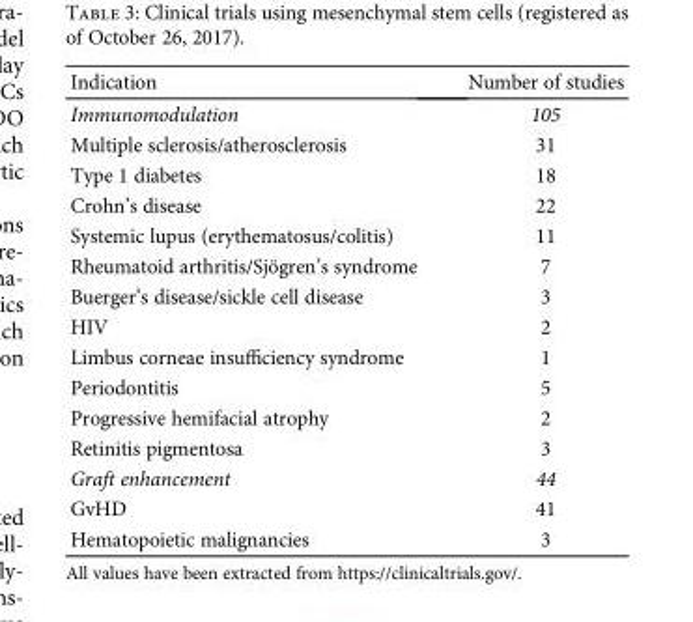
<table><thead><tr><td>Indication</td><td>Number of studies</td></tr></thead><tbody><tr><td>Immunomodulation</td><td>105</td></tr><tr><td>Multiple sclerosis/atherosclerosis</td><td>31</td></tr><tr><td>Type 1 diabetes</td><td>18</td></tr><tr><td>Crohn’s disease</td><td>22</td></tr><tr><td>Systemic lupus (erythematosus/colitis)</td><td>11</td></tr><tr><td>Rheumatoid arthritis/Sjögren’s syndrome</td><td>7</td></tr><tr><td>Buerger’s disease/sickle cell disease</td><td>3</td></tr><tr><td>HIV</td><td>2</td></tr><tr><td>Limbus corneae insufficiency syndrome</td><td>1</td></tr><tr><td>Periodontitis</td><td>5</td></tr><tr><td>Progressive hemifacial atrophy</td><td>2</td></tr><tr><td>Retinitis pigmentosa</td><td>3</td></tr><tr><td>Graft enhancement</td><td>44</td></tr><tr><td>GvHD</td><td>41</td></tr><tr><td>Hematopoietic malignancies</td><td>3</td></tr></tbody></table>